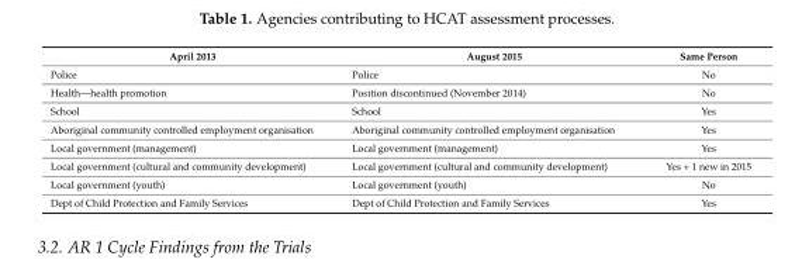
<table><thead><tr><td>April 2013</td><td>August 2015</td><td>Same Person</td></tr></thead><tbody><tr><td>Police</td><td>Police</td><td>No</td></tr><tr><td>Health—health promotion</td><td>Position discontinued (November 2014)</td><td>No</td></tr><tr><td>School</td><td>School</td><td>Yes</td></tr><tr><td>Aboriginal community controlled employment organisation</td><td>Aboriginal community controlled employment organisation</td><td>Yes</td></tr><tr><td>Local government (management)</td><td>Local government (management)</td><td>Yes</td></tr><tr><td>Local government (cultural and community development)</td><td>Local government (cultural and community development)</td><td>Yes + 1 new in 2015</td></tr><tr><td>Local government (youth)</td><td>Local government (youth)</td><td>No</td></tr><tr><td>Dept of Child Protection and Family Services</td><td>Dept of Child Protection and Family Services</td><td>Yes</td></tr></tbody></table>